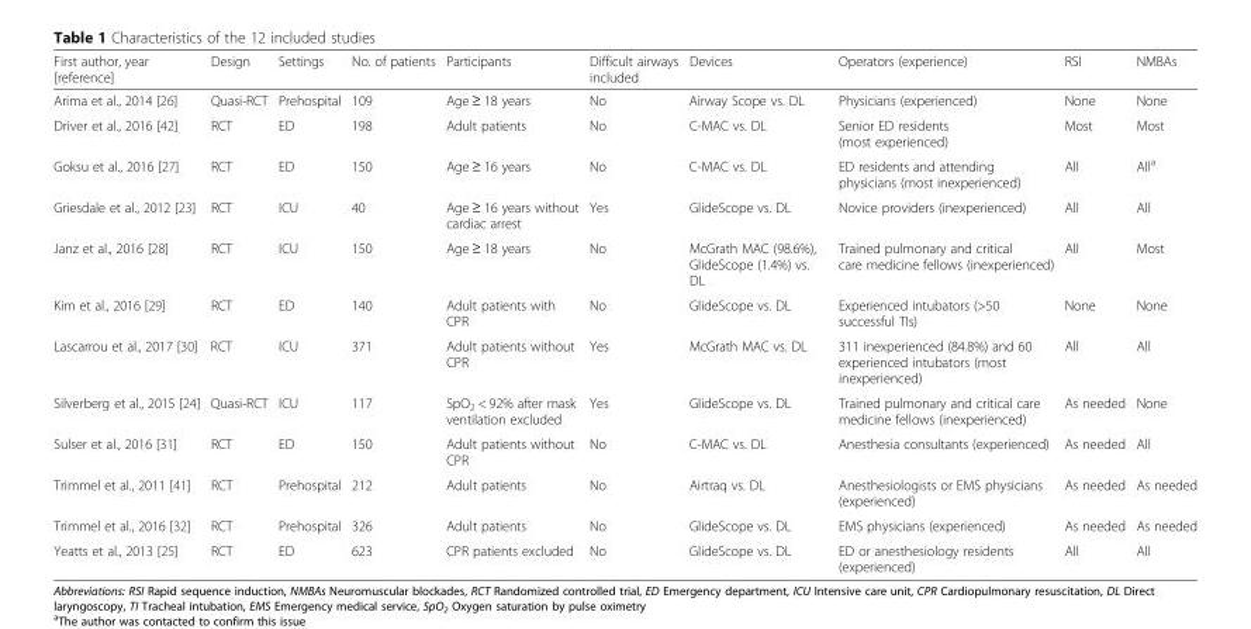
<table><thead><tr><td>First author, year [reference]</td><td>Design</td><td>Settings</td><td>No. of patients</td><td>Participants</td><td>Difficult airways included</td><td>Devices</td><td>Operators (experience)</td><td>RSI</td><td>NMBAs</td></tr></thead><tbody><tr><td>Arima et al., 2014 [26]</td><td>Quasi-RCT</td><td>Prehospital</td><td>109</td><td>Age ≥ 18 years</td><td>No</td><td>Airway Scope vs. DL</td><td>Physicians (experienced)</td><td>None</td><td>None</td></tr><tr><td>Driver et al., 2016 [42]</td><td>RCT</td><td>ED</td><td>198</td><td>Adult patients</td><td>No</td><td>C-MAC vs. DL</td><td>Senior ED residents (most experienced)</td><td>Most</td><td>Most</td></tr><tr><td>Goksu et al., 2016 [27]</td><td>RCT</td><td>ED</td><td>150</td><td>Age ≥ 16 years</td><td>No</td><td>C-MAC vs. DL</td><td>ED residents and attending physicians (most inexperienced)</td><td>All</td><td>All<sup>a</sup></td></tr><tr><td>Griesdale et al., 2012 [23]</td><td>RCT</td><td>ICU</td><td>40</td><td>Age ≥ 16 years without cardiac arrest</td><td>Yes</td><td>GlideScope vs. DL</td><td>Novice providers (inexperienced)</td><td>All</td><td>All</td></tr><tr><td>Janz et al., 2016 [28]</td><td>RCT</td><td>ICU</td><td>150</td><td>Age ≥ 18 years</td><td>No</td><td>McGrath MAC (98.6%), GlideScope (1.4%) vs. DL</td><td>Trained pulmonary and critical care medicine fellows (inexperienced)</td><td>All</td><td>Most</td></tr><tr><td>Kim et al., 2016 [29]</td><td>RCT</td><td>ED</td><td>140</td><td>Adult patients with CPR</td><td>No</td><td>GlideScope vs. DL</td><td>Experienced intubators (&gt;50 successful TIs)</td><td>None</td><td>None</td></tr><tr><td>Lascarrou et al., 2017 [30]</td><td>RCT</td><td>ICU</td><td>371</td><td>Adult patients without CPR</td><td>Yes</td><td>McGrath MAC vs. DL</td><td>311 inexperienced (84.8%) and 60 experienced intubators (most inexperienced)</td><td>All</td><td>All</td></tr><tr><td>Silverberg et al., 2015 [24]</td><td>Quasi-RCT</td><td>ICU</td><td>117</td><td>SpO<sub>2</sub> &lt; 92% after mask ventilation excluded</td><td>Yes</td><td>GlideScope vs. DL</td><td>Trained pulmonary and critical care medicine fellows (inexperienced)</td><td>As needed</td><td>None</td></tr><tr><td>Sulser et al., 2016 [31]</td><td>RCT</td><td>ED</td><td>150</td><td>Adult patients without CPR</td><td>No</td><td>C-MAC vs. DL</td><td>Anesthesia consultants (experienced)</td><td>As needed</td><td>All</td></tr><tr><td>Trimmel et al., 2011 [41]</td><td>RCT</td><td>Prehospital</td><td>212</td><td>Adult patients</td><td>No</td><td>Airtraq vs. DL</td><td>Anesthesiologists or EMS physicians (experienced)</td><td>As needed</td><td>As needed</td></tr><tr><td>Trimmel et al., 2016 [32]</td><td>RCT</td><td>Prehospital</td><td>326</td><td>Adult patients</td><td>No</td><td>GlideScope vs. DL</td><td>EMS physicians (experienced)</td><td>As needed</td><td>As needed</td></tr><tr><td>Yeatts et al., 2013 [25]</td><td>RCT</td><td>ED</td><td>623</td><td>CPR patients excluded</td><td>No</td><td>GlideScope vs. DL</td><td>ED or anesthesiology residents (experienced)</td><td>All</td><td>All</td></tr></tbody></table>